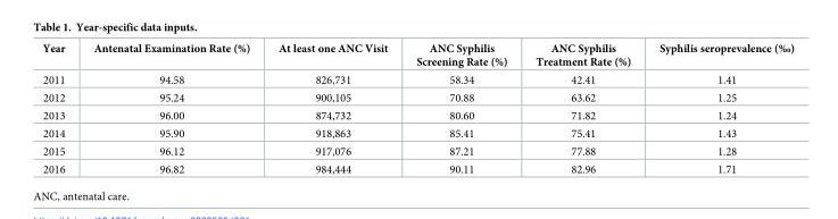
<table><thead><tr><td>Year</td><td>Antenatal Examination Rate (%)</td><td>At least one ANC Visit</td><td>ANC Syphilis Screening Rate (%)</td><td>ANC Syphilis Treatment Rate (%)</td><td>Syphilis seroprevalence (‰)</td></tr></thead><tbody><tr><td>2011</td><td>94.58</td><td>826,731</td><td>58.34</td><td>42.41</td><td>1.41</td></tr><tr><td>2012</td><td>95.24</td><td>900,105</td><td>70.88</td><td>63.62</td><td>1.25</td></tr><tr><td>2013</td><td>96.00</td><td>874,732</td><td>80.60</td><td>71.82</td><td>1.24</td></tr><tr><td>2014</td><td>95.90</td><td>918,863</td><td>85.41</td><td>75.41</td><td>1.43</td></tr><tr><td>2015</td><td>96.12</td><td>917,076</td><td>87.21</td><td>77.88</td><td>1.28</td></tr><tr><td>2016</td><td>96.82</td><td>984,444</td><td>90.11</td><td>82.96</td><td>1.71</td></tr></tbody></table>